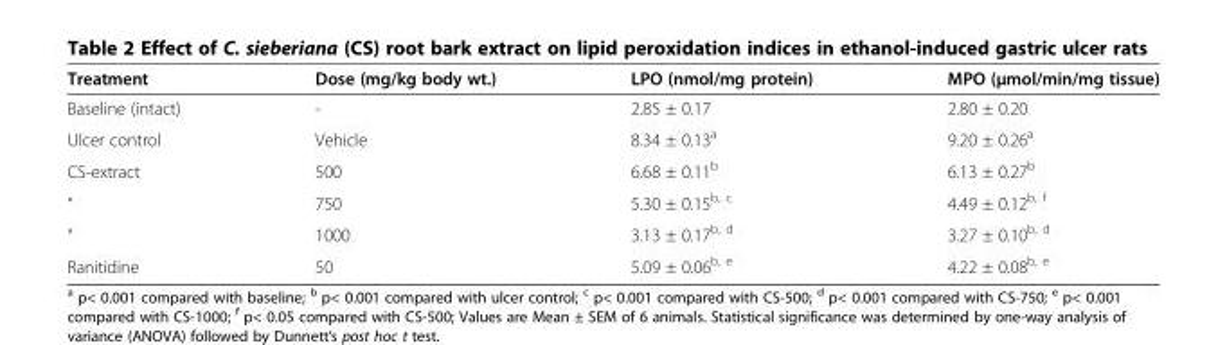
<table><thead><tr><td>Treatment</td><td>Dose (mg/kg body wt.)</td><td>LPO (nmol/mg protein)</td><td>MPO (μmol/min/mg tissue)</td></tr></thead><tbody><tr><td>Baseline (intact)</td><td>-</td><td>2.85 ± 0.17</td><td>2.80 ± 0.20</td></tr><tr><td>Ulcer control</td><td>Vehicle</td><td>8.34 ± 0.13<sup>a</sup></td><td>9.20 ± 0.26<sup>a</sup></td></tr><tr><td>CS-extract</td><td>500</td><td>6.68 ± 0.11<sup>b</sup></td><td>6.13 ± 0.27<sup>b</sup></td></tr><tr><td>“</td><td>750</td><td>5.30 ± 0.15<sup>b, c</sup></td><td>4.49 ± 0.12<sup>b, f</sup></td></tr><tr><td>“</td><td>1000</td><td>3.13 ± 0.17<sup>b, d</sup></td><td>3.27 ± 0.10<sup>b, d</sup></td></tr><tr><td>Ranitidine</td><td>50</td><td>5.09 ± 0.06<sup>b, e</sup></td><td>4.22 ± 0.08<sup>b, e</sup></td></tr></tbody></table>